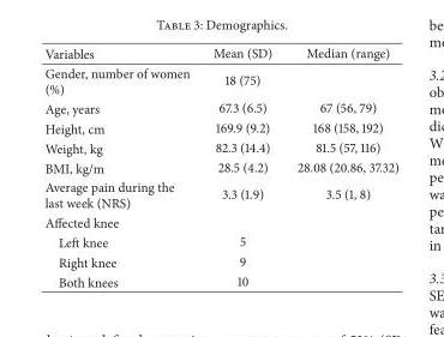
<table><thead><tr><td>Variables</td><td>Mean (SD)</td><td>Median (range)</td></tr></thead><tbody><tr><td>Gender, number of women (%)</td><td>18 (75)</td><td></td></tr><tr><td>Age, years</td><td>67.3 (6.5)</td><td>67 (56, 79)</td></tr><tr><td>Height, cm</td><td>169.9 (9.2)</td><td>168 (158, 192)</td></tr><tr><td>Weight, kg</td><td>82.3 (14.4)</td><td>81.5 (57, 116)</td></tr><tr><td>BMI, kg/m</td><td>28.5 (4.2)</td><td>28.08 (20.86, 37.32)</td></tr><tr><td>Average pain during the last week (NRS)</td><td>3.3 (1.9)</td><td>3.5 (1, 8)</td></tr><tr><td colspan="3">Affected knee</td></tr><tr><td>Left knee</td><td>5</td><td></td></tr><tr><td>Right knee</td><td>9</td><td></td></tr><tr><td>Both knees</td><td>10</td><td></td></tr></tbody></table>